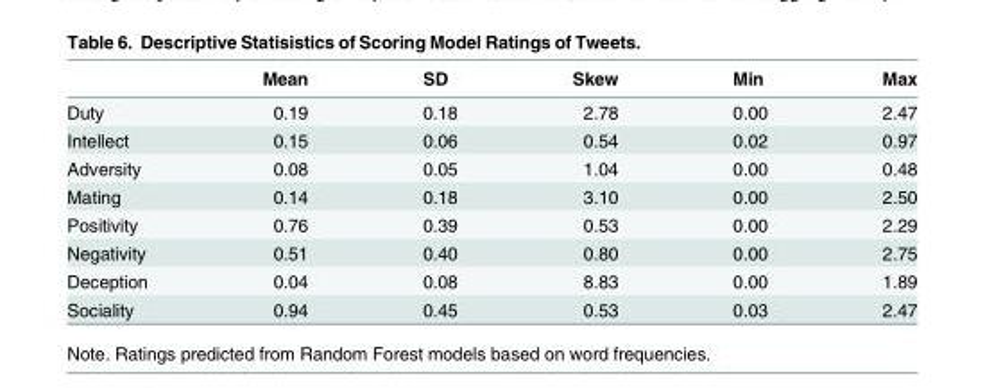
<table><thead><tr><td></td><td>Mean</td><td>SD</td><td>Skew</td><td>Min</td><td>Max</td></tr></thead><tbody><tr><td>Duty</td><td>0.19</td><td>0.18</td><td>2.78</td><td>0.00</td><td>2.47</td></tr><tr><td>Intellect</td><td>0.15</td><td>0.06</td><td>0.54</td><td>0.02</td><td>0.97</td></tr><tr><td>Adversity</td><td>0.08</td><td>0.05</td><td>1.04</td><td>0.00</td><td>0.48</td></tr><tr><td>Mating</td><td>0.14</td><td>0.18</td><td>3.10</td><td>0.00</td><td>2.50</td></tr><tr><td>Positivity</td><td>0.76</td><td>0.39</td><td>0.53</td><td>0.00</td><td>2.29</td></tr><tr><td>Negativity</td><td>0.51</td><td>0.40</td><td>0.80</td><td>0.00</td><td>2.75</td></tr><tr><td>Deception</td><td>0.04</td><td>0.08</td><td>8.83</td><td>0.00</td><td>1.89</td></tr><tr><td>Sociality</td><td>0.94</td><td>0.45</td><td>0.53</td><td>0.03</td><td>2.47</td></tr></tbody></table>